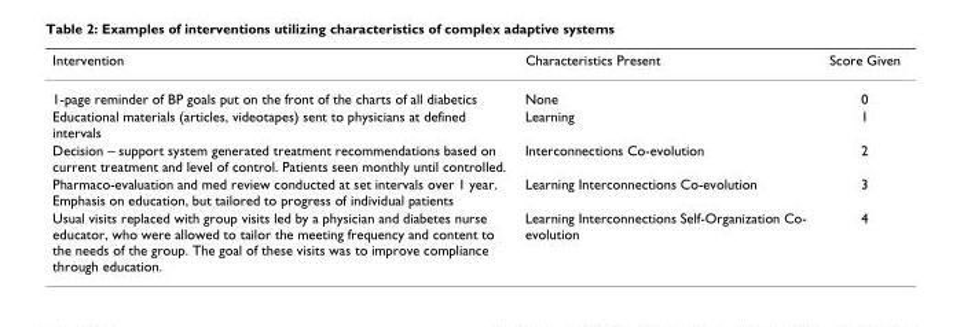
<table><thead><tr><td>Intervention</td><td>Characteristics Present</td><td>Score Given</td></tr></thead><tbody><tr><td>1-page reminder of BP goals put on the front of the charts of all diabetics</td><td>None</td><td>0</td></tr><tr><td>Educational materials (articles, videotapes) sent to physicians at defined intervals</td><td>Learning</td><td>1</td></tr><tr><td>Decision – support system generated treatment recommendations based on current treatment and level of control. Patients seen monthly until controlled.</td><td>Interconnections Co-evolution</td><td>2</td></tr><tr><td>Pharmaco-evaluation and med review conducted at set intervals over 1 year. Emphasis on education, but tailored to progress of individual patients</td><td>Learning Interconnections Co-evolution</td><td>3</td></tr><tr><td>Usual visits replaced with group visits led by a physician and diabetes nurse educator, who were allowed to tailor the meeting frequency and content to the needs of the group. The goal of these visits was to improve compliance through education.</td><td>Learning Interconnections Self-Organization Co- evolution</td><td>4</td></tr></tbody></table>